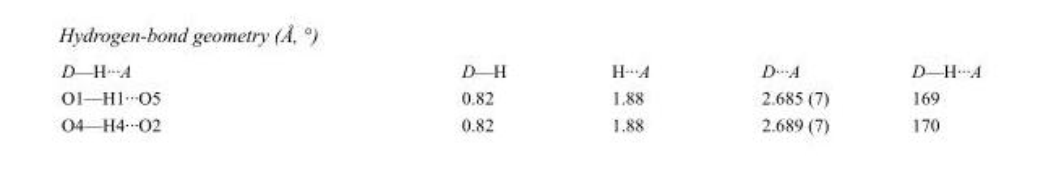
<table><tbody><tr><td>D—H···A</td><td>D—H</td><td>H···A</td><td>D···A</td><td>D—H···A</td></tr><tr><td>O1—H1···O5</td><td>0.82</td><td>1.88</td><td>2.685 (7)</td><td>169</td></tr><tr><td>O4—H4···O2</td><td>0.82</td><td>1.88</td><td>2.689 (7)</td><td>170</td></tr></tbody></table>